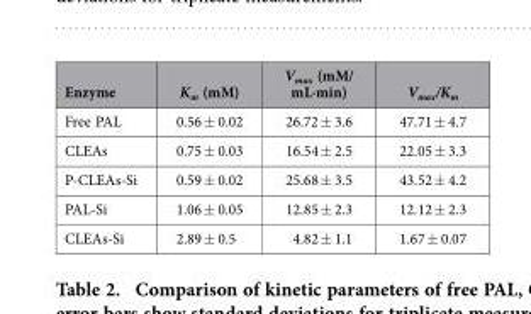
<table><thead><tr><td>Enzyme</td><td>K<sub>m</sub> (mM)</td><td>V<sub>max</sub> (mM/ mL·min)</td><td>V<sub>max</sub>/K<sub>m</sub></td></tr></thead><tbody><tr><td>Free PAL</td><td>0.56 ± 0.02</td><td>26.72 ± 3.6</td><td>47.71 ± 4.7</td></tr><tr><td>CLEAs</td><td>0.75 ± 0.03</td><td>16.54 ± 2.5</td><td>22.05 ± 3.3</td></tr><tr><td>P-CLEAs-Si</td><td>0.59 ± 0.02</td><td>25.68 ± 3.5</td><td>43.52 ± 4.2</td></tr><tr><td>PAL-Si</td><td>1.06 ± 0.05</td><td>12.85 ± 2.3</td><td>12.12 ± 2.3</td></tr><tr><td>CLEAs-Si</td><td>2.89 ± 0.5</td><td>4.82 ± 1.1</td><td>1.67 ± 0.07</td></tr></tbody></table>